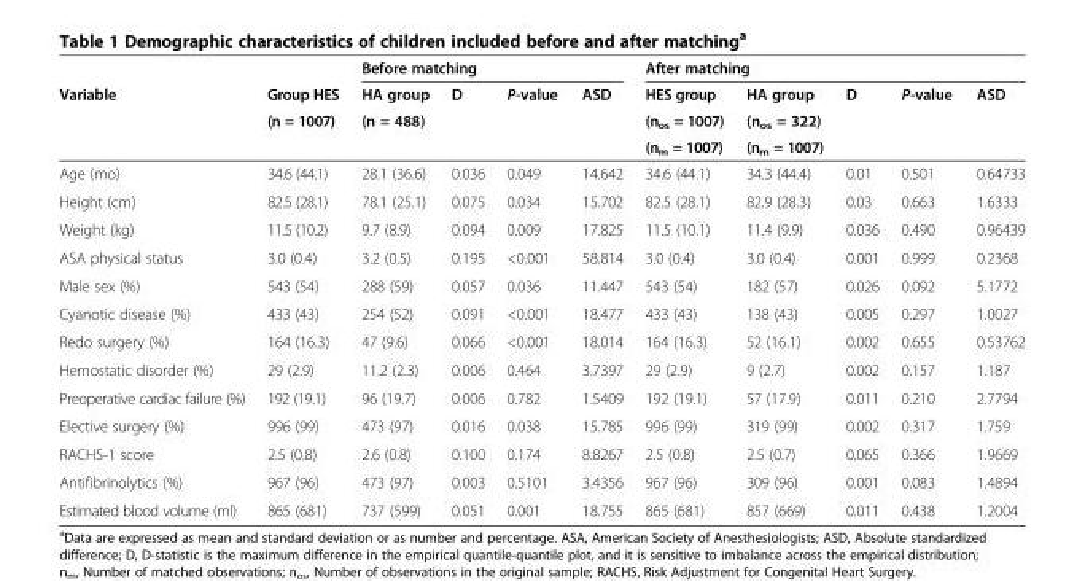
<table><thead><tr><td rowspan="4">Variable</td><td rowspan="4">Group HES (n = 1007)</td><td colspan="4">Before matching</td><td colspan="5">After matching</td></tr><tr><td rowspan="3">HA group (n = 488)</td><td rowspan="3">D</td><td rowspan="3">P-value</td><td rowspan="3">ASD</td><td rowspan="3">HES group (n<sub>os</sub> = 1007) (n<sub>m</sub> = 1007)</td><td rowspan="3">HA group (n<sub>os</sub> = 322) (n<sub>m</sub> = 1007)</td><td rowspan="3">D</td><td rowspan="3">P-value</td><td rowspan="3">ASD</td></tr><tr></tr><tr></tr></thead><tbody><tr><td>Age (mo)</td><td>34.6 (44.1)</td><td>28.1 (36.6)</td><td>0.036</td><td>0.049</td><td>14.642</td><td>34.6 (44.1)</td><td>34.3 (44.4)</td><td>0.01</td><td>0.501</td><td>0.64733</td></tr><tr><td>Height (cm)</td><td>82.5 (28.1)</td><td>78.1 (25.1)</td><td>0.075</td><td>0.034</td><td>15.702</td><td>82.5 (28.1)</td><td>82.9 (28.3)</td><td>0.03</td><td>0.663</td><td>1.6333</td></tr><tr><td>Weight (kg)</td><td>11.5 (10.2)</td><td>9.7 (8.9)</td><td>0.094</td><td>0.009</td><td>17.825</td><td>11.5 (10.1)</td><td>11.4 (9.9)</td><td>0.036</td><td>0.490</td><td>0.96439</td></tr><tr><td>ASA physical status</td><td>3.0 (0.4)</td><td>3.2 (0.5)</td><td>0.195</td><td>&lt;0.001</td><td>58.814</td><td>3.0 (0.4)</td><td>3.0 (0.4)</td><td>0.001</td><td>0.999</td><td>0.2368</td></tr><tr><td>Male sex (%)</td><td>543 (54)</td><td>288 (59)</td><td>0.057</td><td>0.036</td><td>11.447</td><td>543 (54)</td><td>182 (57)</td><td>0.026</td><td>0.092</td><td>5.1772</td></tr><tr><td>Cyanotic disease (%)</td><td>433 (43)</td><td>254 (52)</td><td>0.091</td><td>&lt;0.001</td><td>18.477</td><td>433 (43)</td><td>138 (43)</td><td>0.005</td><td>0.297</td><td>1.0027</td></tr><tr><td>Redo surgery (%)</td><td>164 (16.3)</td><td>47 (9.6)</td><td>0.066</td><td>&lt;0.001</td><td>18.014</td><td>164 (16.3)</td><td>52 (16.1)</td><td>0.002</td><td>0.655</td><td>0.53762</td></tr><tr><td>Hemostatic disorder (%)</td><td>29 (2.9)</td><td>11.2 (2.3)</td><td>0.006</td><td>0.464</td><td>3.7397</td><td>29 (2.9)</td><td>9 (2.7)</td><td>0.002</td><td>0.157</td><td>1.187</td></tr><tr><td>Preoperative cardiac failure (%)</td><td>192 (19.1)</td><td>96 (19.7)</td><td>0.006</td><td>0.782</td><td>1.5409</td><td>192 (19.1)</td><td>57 (17.9)</td><td>0.011</td><td>0.210</td><td>2.7794</td></tr><tr><td>Elective surgery (%)</td><td>996 (99)</td><td>473 (97)</td><td>0.016</td><td>0.038</td><td>15.785</td><td>996 (99)</td><td>319 (99)</td><td>0.002</td><td>0.317</td><td>1.759</td></tr><tr><td>RACHS-1 score</td><td>2.5 (0.8)</td><td>2.6 (0.8)</td><td>0.100</td><td>0.174</td><td>8.8267</td><td>2.5 (0.8)</td><td>2.5 (0.7)</td><td>0.065</td><td>0.366</td><td>1.9669</td></tr><tr><td>Antifibrinolytics (%)</td><td>967 (96)</td><td>473 (97)</td><td>0.003</td><td>0.5101</td><td>3.4356</td><td>967 (96)</td><td>309 (96)</td><td>0.001</td><td>0.083</td><td>1.4894</td></tr><tr><td>Estimated blood volume (ml)</td><td>865 (681)</td><td>737 (599)</td><td>0.051</td><td>0.001</td><td>18.755</td><td>865 (681)</td><td>857 (669)</td><td>0.011</td><td>0.438</td><td>1.2004</td></tr></tbody></table>